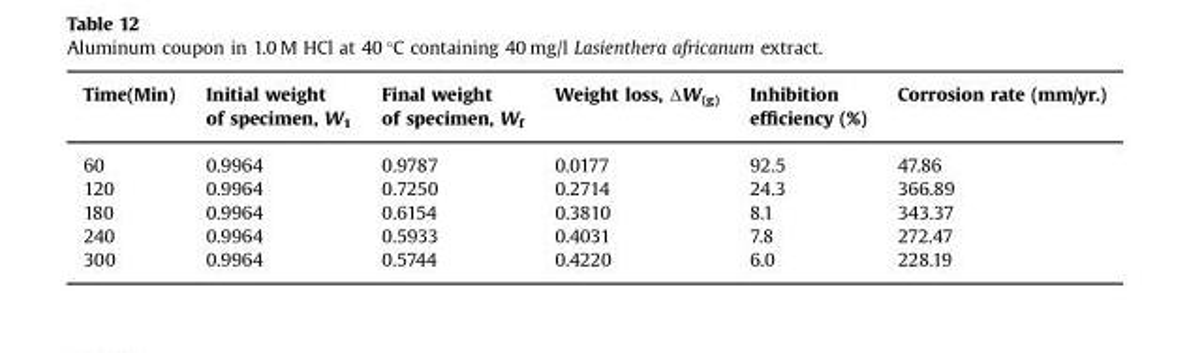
<table><thead><tr><td>Time(Min)</td><td>Initial weight of specimen, W<sub>1</sub></td><td>Final weight of specimen, W<sub>f</sub></td><td>Weight loss, ΔW(g)</td><td>Inhibition efficiency (%)</td><td>Corrosion rate (mm/yr.)</td></tr></thead><tbody><tr><td>60</td><td>0.9964</td><td>0.9787</td><td>0.0177</td><td>92.5</td><td>47.86</td></tr><tr><td>120</td><td>0.9964</td><td>0.7250</td><td>0.2714</td><td>24.3</td><td>366.89</td></tr><tr><td>180</td><td>0.9964</td><td>0.6154</td><td>0.3810</td><td>8.1</td><td>343.37</td></tr><tr><td>240</td><td>0.9964</td><td>0.5933</td><td>0.4031</td><td>7.8</td><td>272.47</td></tr><tr><td>300</td><td>0.9964</td><td>0.5744</td><td>0.4220</td><td>6.0</td><td>228.19</td></tr></tbody></table>